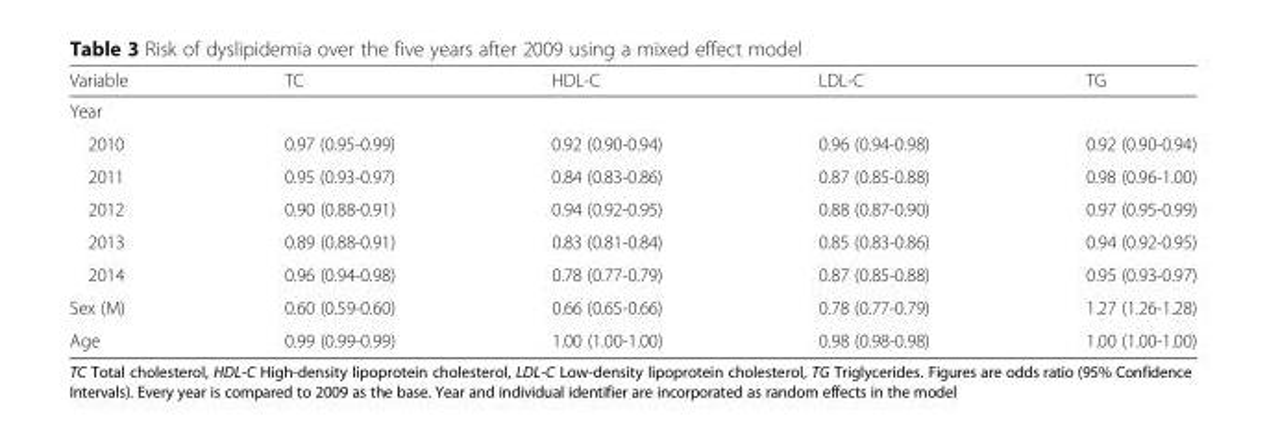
<table><thead><tr><td>Variable</td><td>TC</td><td>HDL-C</td><td>LDL-C</td><td>TG</td></tr></thead><tbody><tr><td colspan="5">Year</td></tr><tr><td>2010</td><td>0.97 (0.95-0.99)</td><td>0.92 (0.90-0.94)</td><td>0.96 (0.94-0.98)</td><td>0.92 (0.90-0.94)</td></tr><tr><td>2011</td><td>0.95 (0.93-0.97)</td><td>0.84 (0.83-0.86)</td><td>0.87 (0.85-0.88)</td><td>0.98 (0.96-1.00)</td></tr><tr><td>2012</td><td>0.90 (0.88-0.91)</td><td>0.94 (0.92-0.95)</td><td>0.88 (0.87-0.90)</td><td>0.97 (0.95-0.99)</td></tr><tr><td>2013</td><td>0.89 (0.88-0.91)</td><td>0.83 (0.81-0.84)</td><td>0.85 (0.83-0.86)</td><td>0.94 (0.92-0.95)</td></tr><tr><td>2014</td><td>0.96 (0.94-0.98)</td><td>0.78 (0.77-0.79)</td><td>0.87 (0.85-0.88)</td><td>0.95 (0.93-0.97)</td></tr><tr><td>Sex (M)</td><td>0.60 (0.59-0.60)</td><td>0.66 (0.65-0.66)</td><td>0.78 (0.77-0.79)</td><td>1.27 (1.26-1.28)</td></tr><tr><td>Age</td><td>0.99 (0.99-0.99)</td><td>1.00 (1.00-1.00)</td><td>0.98 (0.98-0.98)</td><td>1.00 (1.00-1.00)</td></tr></tbody></table>